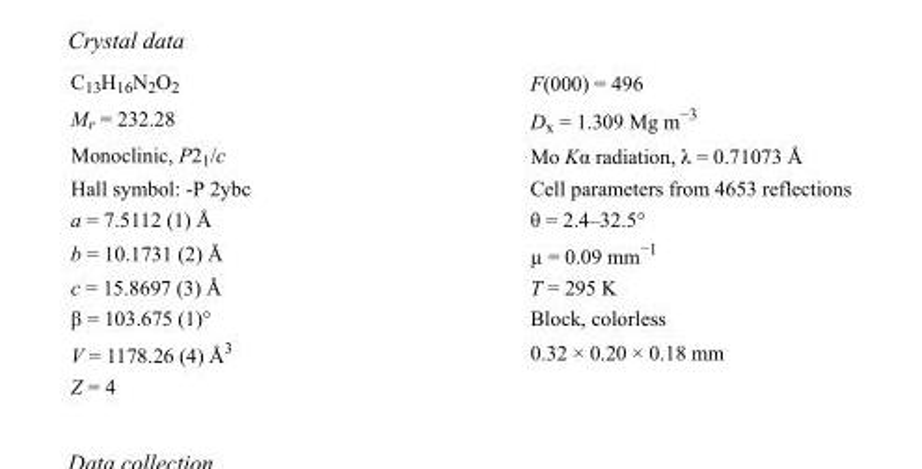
<table><tbody><tr><td>C<sub>13</sub>H<sub>16</sub>N<sub>2</sub>O<sub>2</sub></td><td>F(000) = 496</td></tr><tr><td>M<sub>r</sub> = 232.28</td><td>D<sub>x</sub> = 1.309 Mg m<sup>−3</sup></td></tr><tr><td>Monoclinic, P2<sub>1</sub>/c</td><td>Mo Kα radiation, λ = 0.71073 Å</td></tr><tr><td>Hall symbol: -P 2ybc</td><td>Cell parameters from 4653 reflections</td></tr><tr><td>a = 7.5112 (1) Å</td><td>θ = 2.4–32.5°</td></tr><tr><td>b = 10.1731 (2) Å</td><td>µ = 0.09 mm<sup>−1</sup></td></tr><tr><td>c = 15.8697 (3) Å</td><td>T = 295 K</td></tr><tr><td>β = 103.675 (1)°</td><td>Block, colorless</td></tr><tr><td>V = 1178.26 (4) Å<sup>3</sup></td><td>0.32 × 0.20 × 0.18 mm</td></tr><tr><td>Z = 4</td><td></td></tr></tbody></table>